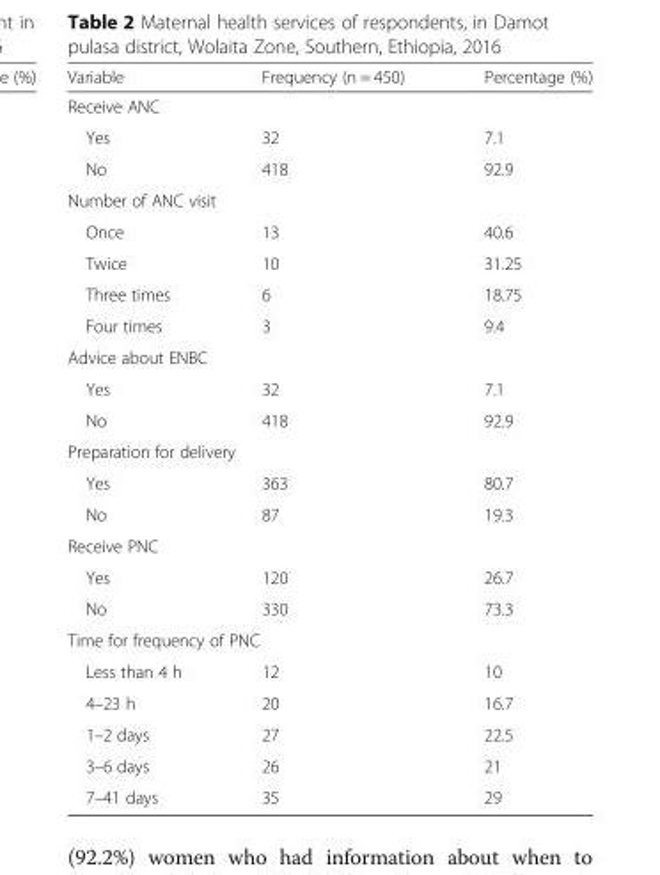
<table><thead><tr><td>Variable</td><td>Frequency (n = 450)</td><td>Percentage (%)</td></tr></thead><tbody><tr><td colspan="3">Receive ANC</td></tr><tr><td>Yes</td><td>32</td><td>7.1</td></tr><tr><td>No</td><td>418</td><td>92.9</td></tr><tr><td colspan="3">Number of ANC visit</td></tr><tr><td>Once</td><td>13</td><td>40.6</td></tr><tr><td>Twice</td><td>10</td><td>31.25</td></tr><tr><td>Three times</td><td>6</td><td>18.75</td></tr><tr><td>Four times</td><td>3</td><td>9.4</td></tr><tr><td colspan="3">Advice about ENBC</td></tr><tr><td>Yes</td><td>32</td><td>7.1</td></tr><tr><td>No</td><td>418</td><td>92.9</td></tr><tr><td colspan="3">Preparation for delivery</td></tr><tr><td>Yes</td><td>363</td><td>80.7</td></tr><tr><td>No</td><td>87</td><td>19.3</td></tr><tr><td colspan="3">Receive PNC</td></tr><tr><td>Yes</td><td>120</td><td>26.7</td></tr><tr><td>No</td><td>330</td><td>73.3</td></tr><tr><td colspan="3">Time for frequency of PNC</td></tr><tr><td>Less than 4 h</td><td>12</td><td>10</td></tr><tr><td>4–23 h</td><td>20</td><td>16.7</td></tr><tr><td>1–2 days</td><td>27</td><td>22.5</td></tr><tr><td>3–6 days</td><td>26</td><td>21</td></tr><tr><td>7–41 days</td><td>35</td><td>29</td></tr></tbody></table>